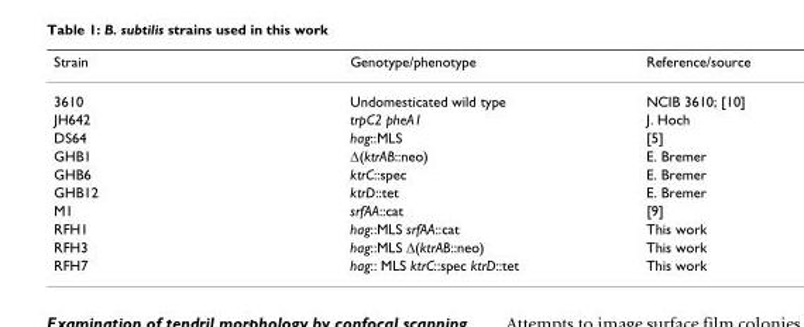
<table><thead><tr><td>Strain</td><td>Genotype/phenotype</td><td>Reference/source</td></tr></thead><tbody><tr><td>3610</td><td>Undomesticated wild type</td><td>NCIB 3610; [10]</td></tr><tr><td>JH642</td><td>trpC2 pheA1</td><td>J. Hoch</td></tr><tr><td>DS64</td><td>hag::MLS</td><td>[5]</td></tr><tr><td>GHB1</td><td>∆(ktrAB::neo)</td><td>E. Bremer</td></tr><tr><td>GHB6</td><td>ktrC::spec</td><td>E. Bremer</td></tr><tr><td>GHB12</td><td>ktrD::tet</td><td>E. Bremer</td></tr><tr><td>M1</td><td>srfAA::cat</td><td>[9]</td></tr><tr><td>RFH1</td><td>hag::MLS srfAA::cat</td><td>This work</td></tr><tr><td>RFH3</td><td>hag::MLS ∆(ktrAB::neo)</td><td>This work</td></tr><tr><td>RFH7</td><td>hag:: MLS ktrC::spec ktrD::tet</td><td>This work</td></tr></tbody></table>